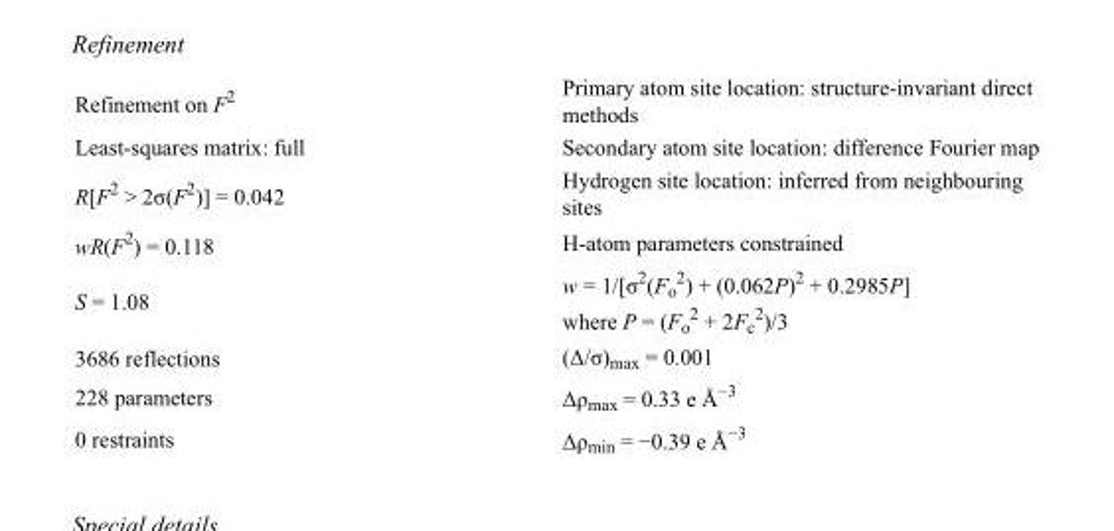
<table><tbody><tr><td>Refinement on F<sup>2</sup></td><td>Primary atom site location: structure-invariant direct methods</td></tr><tr><td>Least-squares matrix: full</td><td>Secondary atom site location: difference Fourier map</td></tr><tr><td>R[F<sup>2</sup> &gt; 2σ(F<sup>2</sup>)] = 0.042</td><td>Hydrogen site location: inferred from neighbouring sites</td></tr><tr><td>wR(F<sup>2</sup>) = 0.118</td><td>H-atom parameters constrained</td></tr><tr><td>S = 1.08</td><td>w = 1/[σ<sup>2</sup>(F<sub>o</sub> <sup>2</sup>) + (0.062P)<sup>2</sup> + 0.2985P] where P = (F<sub>o</sub> <sup>2</sup> + 2F<sub>c</sub> <sup>2</sup>)/3</td></tr><tr><td>3686 reflections</td><td>(Δ/σ)<sub>max</sub> = 0.001</td></tr><tr><td>228 parameters</td><td>Δρ<sub>max</sub> = 0.33 e Å<sup>−3</sup></td></tr><tr><td>0 restraints</td><td>Δρ<sub>min</sub> = −0.39 e Å<sup>−3</sup></td></tr></tbody></table>